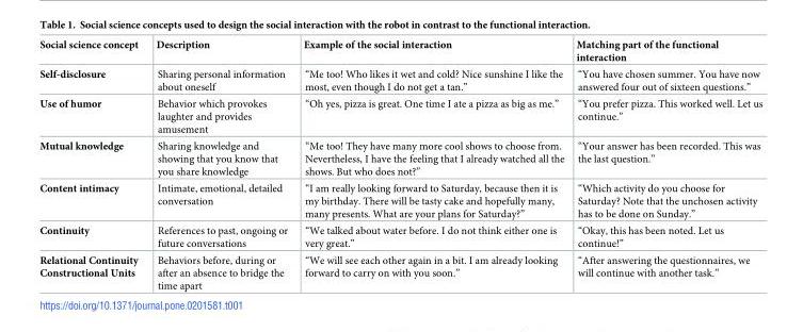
<table><thead><tr><td>Social science concept</td><td>Description</td><td>Example of the social interaction</td><td>Matching part of the functional interaction</td></tr></thead><tbody><tr><td>Self-disclosure</td><td>Sharing personal information about oneself</td><td>“Me too! Who likes it wet and cold? Nice sunshine I like the most, even though I do not get a tan.”</td><td>“You have chosen summer. You have now answered four out of sixteen questions.”</td></tr><tr><td>Use of humor</td><td>Behavior which provokes laughter and provides amusement</td><td>“Oh yes, pizza is great. One time I ate a pizza as big as me.”</td><td>“You prefer pizza. This worked well. Let us continue.”</td></tr><tr><td>Mutual knowledge</td><td>Sharing knowledge and showing that you know that you share knowledge</td><td>“Me too! They have many more cool shows to choose from. Nevertheless, I have the feeling that I already watched all the shows. But who does not?”</td><td>“Your answer has been recorded. This was the last question.”</td></tr><tr><td>Content intimacy</td><td>Intimate, emotional, detailed conversation</td><td>“I am really looking forward to Saturday, because then it is my birthday. There will be tasty cake and hopefully many, many presents. What are your plans for Saturday?”</td><td>“Which activity do you choose for Saturday? Note that the unchosen activity has to be done on Sunday.”</td></tr><tr><td>Continuity</td><td>References to past, ongoing or future conversations</td><td>“We talked about water before. I do not think either one is very great.”</td><td>“Okay, this has been noted. Let us continue!”</td></tr><tr><td>Relational Continuity Constructional Units</td><td>Behaviors before, during or after an absence to bridge the time apart</td><td>“We will see each other again in a bit. I am already looking forward to carry on with you soon.”</td><td>“After answering the questionnaires, we will continue with another task.”</td></tr></tbody></table>